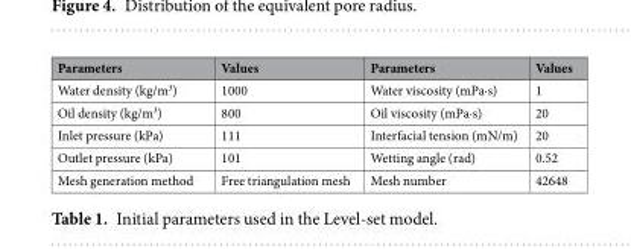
<table><thead><tr><td>Parameters</td><td>Values</td><td>Parameters</td><td>Values</td></tr></thead><tbody><tr><td>Water density (kg/m<sup>3</sup>)</td><td>1000</td><td>Water viscosity (mPa·s)</td><td>1</td></tr><tr><td>Oil density (kg/m<sup>3</sup>)</td><td>800</td><td>Oil viscosity (mPa·s)</td><td>20</td></tr><tr><td>Inlet pressure (kPa)</td><td>111</td><td>Interfacial tension (mN/m)</td><td>20</td></tr><tr><td>Outlet pressure (kPa)</td><td>101</td><td>Wetting angle (rad)</td><td>0.52</td></tr><tr><td>Mesh generation method</td><td>Free triangulation mesh</td><td>Mesh number</td><td>42648</td></tr></tbody></table>